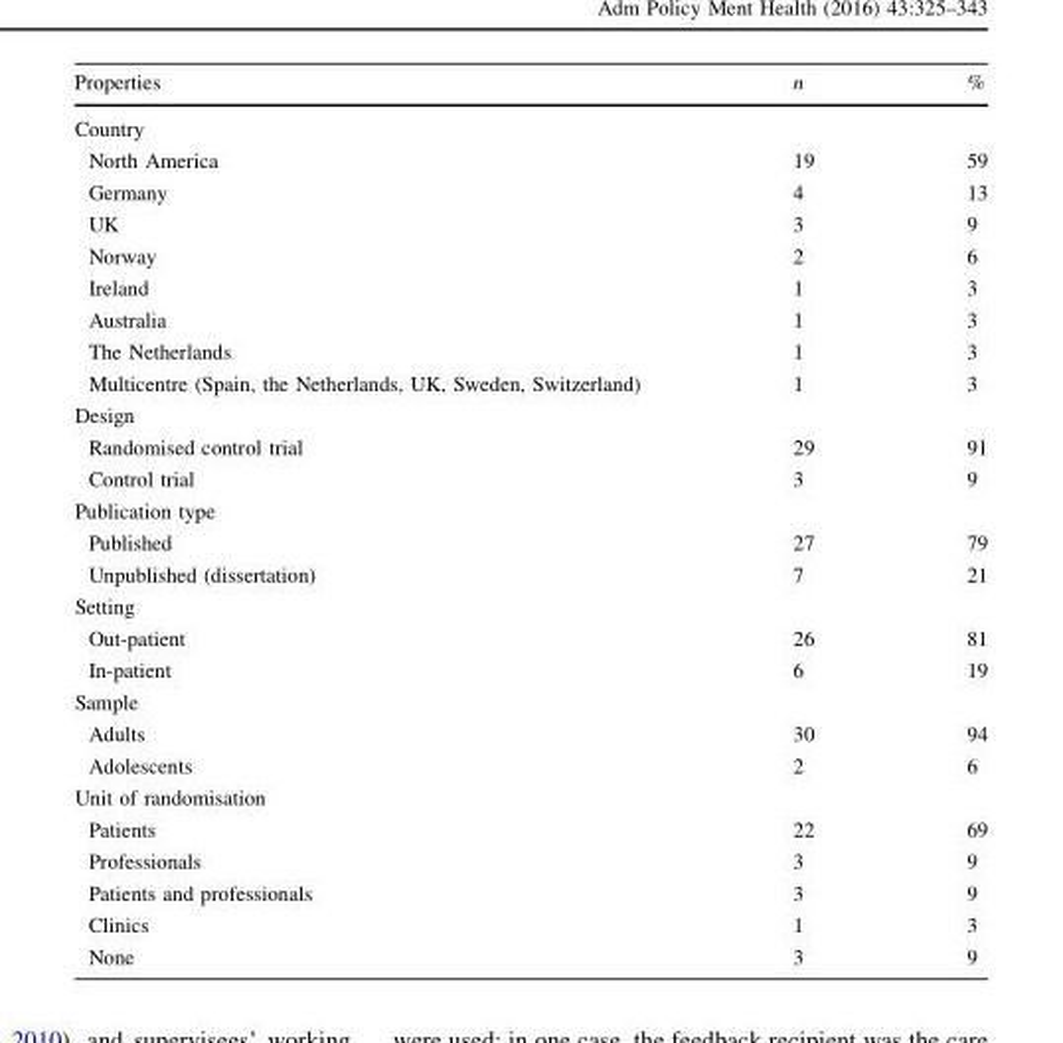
<table><thead><tr><td>Properties</td><td>n</td><td>%</td></tr></thead><tbody><tr><td colspan="3">Country</td></tr><tr><td>North America</td><td>19</td><td>59</td></tr><tr><td>Germany</td><td>4</td><td>13</td></tr><tr><td>UK</td><td>3</td><td>9</td></tr><tr><td>Norway</td><td>2</td><td>6</td></tr><tr><td>Ireland</td><td>1</td><td>3</td></tr><tr><td>Australia</td><td>1</td><td>3</td></tr><tr><td>The Netherlands</td><td>1</td><td>3</td></tr><tr><td>Multicentre (Spain, the Netherlands, UK, Sweden, Switzerland)</td><td>1</td><td>3</td></tr><tr><td colspan="3">Design</td></tr><tr><td>Randomised control trial</td><td>29</td><td>91</td></tr><tr><td>Control trial</td><td>3</td><td>9</td></tr><tr><td colspan="3">Publication type</td></tr><tr><td>Published</td><td>27</td><td>79</td></tr><tr><td>Unpublished (dissertation)</td><td>7</td><td>21</td></tr><tr><td colspan="3">Setting</td></tr><tr><td>Out-patient</td><td>26</td><td>81</td></tr><tr><td>In-patient</td><td>6</td><td>19</td></tr><tr><td colspan="3">Sample</td></tr><tr><td>Adults</td><td>30</td><td>94</td></tr><tr><td>Adolescents</td><td>2</td><td>6</td></tr><tr><td colspan="3">Unit of randomisation</td></tr><tr><td>Patients</td><td>22</td><td>69</td></tr><tr><td>Professionals</td><td>3</td><td>9</td></tr><tr><td>Patients and professionals</td><td>3</td><td>9</td></tr><tr><td>Clinics</td><td>1</td><td>3</td></tr><tr><td>None</td><td>3</td><td>9</td></tr></tbody></table>